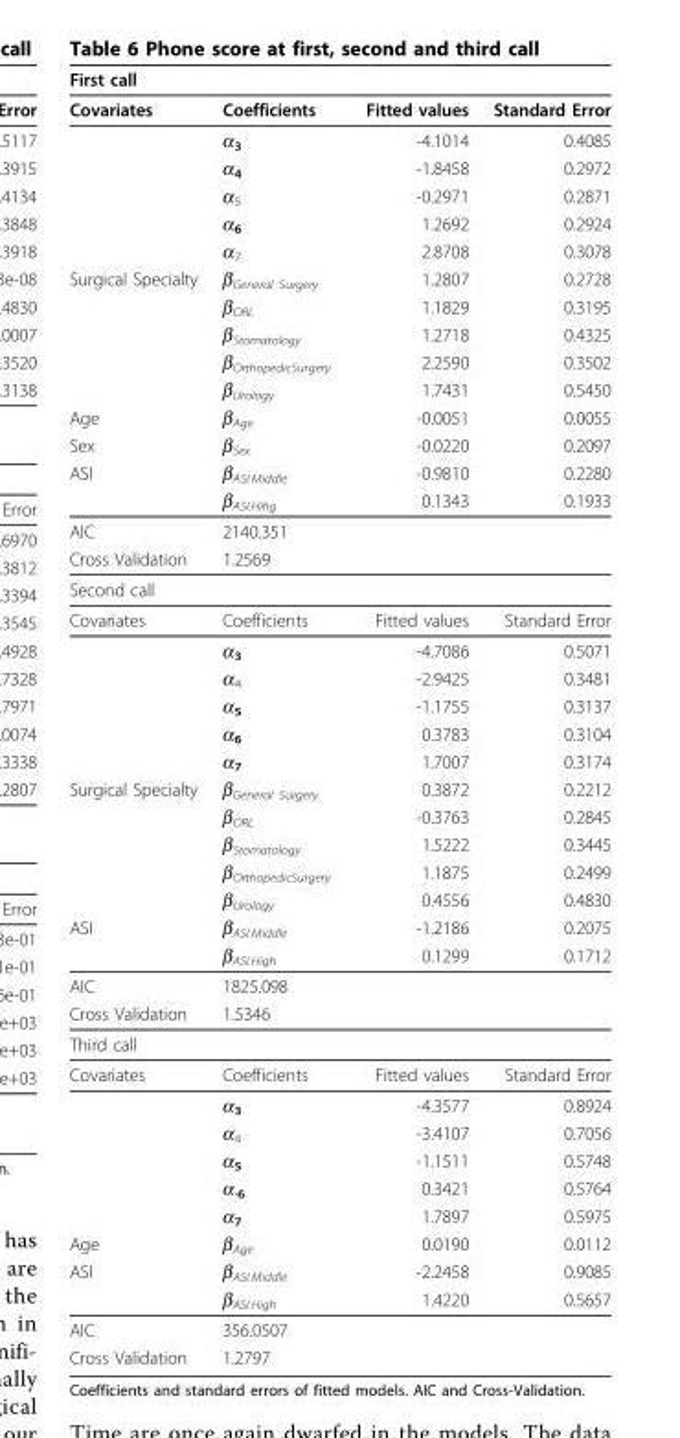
<table><thead><tr><td>First call</td><td></td><td></td><td></td></tr></thead><tbody><tr><td rowspan="6">Covariates</td><td>Coefficients</td><td>Fitted values</td><td>Standard Error</td></tr><tr><td>α<sub>3</sub></td><td>-4.1014</td><td>0.4085</td></tr><tr><td>α<sub>4</sub></td><td>-1.8458</td><td>0.2972</td></tr><tr><td>α<sub>5</sub></td><td>-0.2971</td><td>0.2871</td></tr><tr><td>α<sub>6</sub></td><td>1.2692</td><td>0.2924</td></tr><tr><td>α<sub>7</sub></td><td>2.8708</td><td>0.3078</td></tr><tr><td rowspan="5">Surgical Specialty</td><td>β<sub>General Surgery</sub></td><td>1.2807</td><td>0.2728</td></tr><tr><td>β<sub>ORL</sub></td><td>1.1829</td><td>0.3195</td></tr><tr><td>β<sub>Stomatology</sub></td><td>1.2718</td><td>0.4325</td></tr><tr><td>β<sub>OrthopedicSurgery</sub></td><td>2.2590</td><td>0.3502</td></tr><tr><td>β<sub>Urology</sub></td><td>1.7431</td><td>0.5450</td></tr><tr><td>Age</td><td>β<sub>Age</sub></td><td>-0.0051</td><td>0.0055</td></tr><tr><td>Sex</td><td>β<sub>Sex</sub></td><td>-0.0220</td><td>0.2097</td></tr><tr><td rowspan="2">ASI</td><td>β<sub>ASI.Middle</sub></td><td>-0.9810</td><td>0.2280</td></tr><tr><td>β<sub>ASI.Hihg</sub></td><td>0.1343</td><td>0.1933</td></tr><tr><td>AIC</td><td>2140.351</td><td></td><td></td></tr><tr><td>Cross Validation</td><td>1.2569</td><td></td><td></td></tr><tr><td colspan="4">Second call</td></tr><tr><td rowspan="6">Covariates</td><td>Coefficients</td><td>Fitted values</td><td>Standard Error</td></tr><tr><td>α<sub>3</sub></td><td>-4.7086</td><td>0.5071</td></tr><tr><td>α<sub>4</sub></td><td>-2.9425</td><td>0.3481</td></tr><tr><td>α<sub>5</sub></td><td>-1.1755</td><td>0.3137</td></tr><tr><td>α<sub>6</sub></td><td>0.3783</td><td>0.3104</td></tr><tr><td>α<sub>7</sub></td><td>1.7007</td><td>0.3174</td></tr><tr><td rowspan="5">Surgical Specialty</td><td>β<sub>General Surgery</sub></td><td>0.3872</td><td>0.2212</td></tr><tr><td>β<sub>ORL</sub></td><td>-0.3763</td><td>0.2845</td></tr><tr><td>β<sub>Stomatology</sub></td><td>1.5222</td><td>0.3445</td></tr><tr><td>β<sub>OrthopedicSurgery</sub></td><td>1.1875</td><td>0.2499</td></tr><tr><td>β<sub>Urology</sub></td><td>0.4556</td><td>0.4830</td></tr><tr><td rowspan="2">ASI</td><td>β<sub>ASI.Middle</sub></td><td>-1.2186</td><td>0.2075</td></tr><tr><td>β<sub>ASI.High</sub></td><td>0.1299</td><td>0.1712</td></tr><tr><td>AIC</td><td>1825.098</td><td></td><td></td></tr><tr><td>Cross Validation</td><td>1.5346</td><td></td><td></td></tr><tr><td colspan="4">Third call</td></tr><tr><td rowspan="6">Covariates</td><td>Coefficients</td><td>Fitted values</td><td>Standard Error</td></tr><tr><td>α<sub>3</sub></td><td>-4.3577</td><td>0.8924</td></tr><tr><td>α<sub>4</sub></td><td>-3.4107</td><td>0.7056</td></tr><tr><td>α<sub>5</sub></td><td>-1.1511</td><td>0.5748</td></tr><tr><td>α.<sub>6</sub></td><td>0.3421</td><td>0.5764</td></tr><tr><td>α<sub>7</sub></td><td>1.7897</td><td>0.5975</td></tr><tr><td>Age</td><td>β<sub>Age</sub></td><td>0.0190</td><td>0.0112</td></tr><tr><td rowspan="2">ASI</td><td>β<sub>ASI.Middle</sub></td><td>-2.2458</td><td>0.9085</td></tr><tr><td>β<sub>ASI.High</sub></td><td>1.4220</td><td>0.5657</td></tr><tr><td>AIC</td><td>356.0507</td><td></td><td></td></tr><tr><td>Cross Validation</td><td>1.2797</td><td></td><td></td></tr></tbody></table>